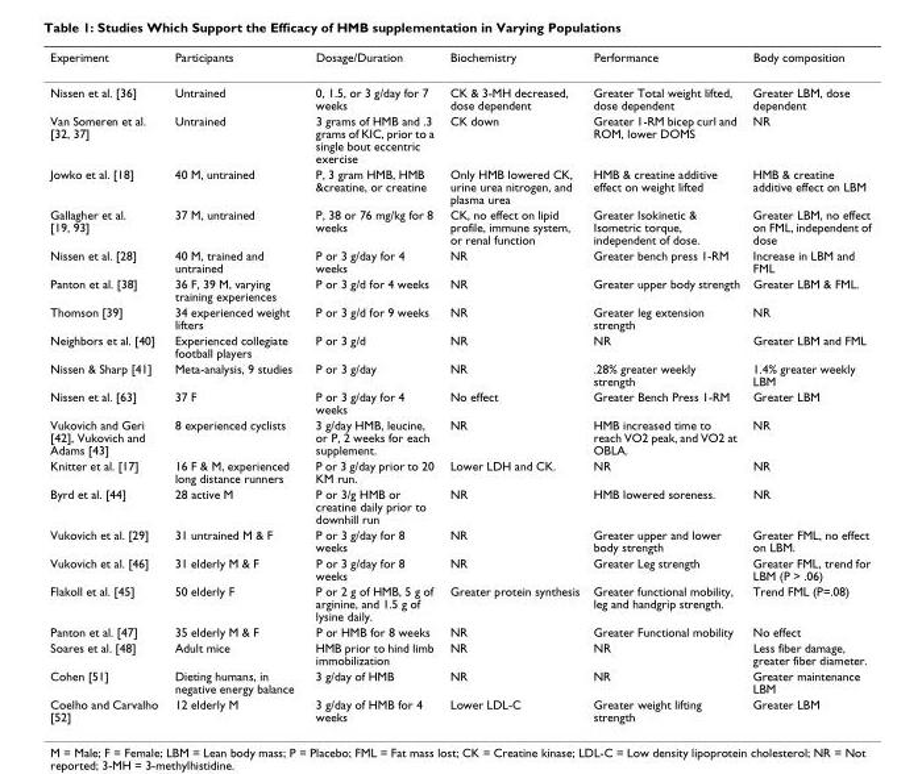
<table><thead><tr><td>Experiment</td><td>Participants</td><td>Dosage/Duration</td><td>Biochemistry</td><td>Performance</td><td>Body composition</td></tr></thead><tbody><tr><td>Nissen et al. [36]</td><td>Untrained</td><td>0, 1.5, or 3 g/day for 7 weeks</td><td>CK &amp; 3-MH decreased, dose dependent</td><td>Greater Total weight lifted, dose dependent</td><td>Greater LBM, dose dependent</td></tr><tr><td>Van Someren et al. [32, 37]</td><td>Untrained</td><td>3 grams of HMB and .3 grams of KIC, prior to a single bout eccentric exercise</td><td>CK down</td><td>Greater 1-RM bicep curl and ROM, lower DOMS</td><td>NR</td></tr><tr><td>Jowko et al. [18]</td><td>40 M, untrained</td><td>P, 3 gram HMB, HMB &amp;creatine, or creatine</td><td>Only HMB lowered CK, urine urea nitrogen, and plasma urea</td><td>HMB &amp; creatine additive effect on weight lifted</td><td>HMB &amp; creatine additive effect on LBM</td></tr><tr><td>Gallagher et al. [19, 93]</td><td>37 M, untrained</td><td>P, 38 or 76 mg/kg for 8 weeks</td><td>CK, no effect on lipid profile, immune system, or renal function</td><td>Greater Isokinetic &amp; Isometric torque, independent of dose.</td><td>Greater LBM, no effect on FML, independent of dose</td></tr><tr><td>Nissen et al. [28]</td><td>40 M, trained and untrained</td><td>P or 3 g/day for 4 weeks</td><td>NR</td><td>Greater bench press 1-RM</td><td>Increase in LBM and FML</td></tr><tr><td>Panton et al. [38]</td><td>36 F, 39 M, varying training experiences</td><td>P or 3 g/d for 4 weeks</td><td>NR</td><td>Greater upper body strength</td><td>Greater LBM &amp; FML.</td></tr><tr><td>Thomson [39]</td><td>34 experienced weight lifters</td><td>P or 3 g/d for 9 weeks</td><td>NR</td><td>Greater leg extension strength</td><td>NR</td></tr><tr><td>Neighbors et al. [40]</td><td>Experienced collegiate football players</td><td>P or 3 g/d</td><td>NR</td><td>NR</td><td>Greater LBM and FML</td></tr><tr><td>Nissen &amp; Sharp [41]</td><td>Meta-analysis, 9 studies</td><td>P or 3 g/day</td><td>NR</td><td>.28% greater weekly strength</td><td>1.4% greater weekly LBM</td></tr><tr><td>Nissen et al. [63]</td><td>37 F</td><td>P or 3 g/day for 4 weeks</td><td>No effect</td><td>Greater Bench Press 1-RM</td><td>Greater LBM</td></tr><tr><td>Vukovich and Geri [42], Vukovich and Adams [43]</td><td>8 experienced cyclists</td><td>3 g/day HMB, leucine, or P, 2 weeks for each supplement.</td><td>NR</td><td>HMB increased time to reach VO2 peak, and VO2 at OBLA.</td><td>NR</td></tr><tr><td>Knitter et al. [17]</td><td>16 F &amp; M, experienced long distance runners</td><td>P or 3 g/day prior to 20 KM run.</td><td>Lower LDH and CK.</td><td>NR</td><td>NR</td></tr><tr><td>Byrd et al. [44]</td><td>28 active M</td><td>P or 3/g HMB or creatine daily prior to downhill run</td><td>NR</td><td>HMB lowered soreness.</td><td>NR</td></tr><tr><td>Vukovich et al. [29]</td><td>31 untrained M &amp; F</td><td>P or 3 g/day for 8 weeks</td><td>NR</td><td>Greater upper and lower body strength</td><td>Greater FML, no effect on LBM.</td></tr><tr><td>Vukovich et al. [46]</td><td>31 elderly M &amp; F</td><td>P or 3 g/day for 8 weeks</td><td>NR</td><td>Greater Leg strength</td><td>Greater FML, trend for LBM (P &gt; .06)</td></tr><tr><td>Flakoll et al. [45]</td><td>50 elderly F</td><td>P or 2 g of HMB, 5 g of arginine, and 1.5 g of lysine daily.</td><td>Greater protein synthesis</td><td>Greater functional mobility, leg and handgrip strength.</td><td>Trend FML (P=.08)</td></tr><tr><td>Panton et al. [47]</td><td>35 elderly M &amp; F</td><td>P or HMB for 8 weeks</td><td>NR</td><td>Greater Functional mobility</td><td>No effect</td></tr><tr><td>Soares et al. [48]</td><td>Adult mice</td><td>HMB prior to hind limb immobilization</td><td>NR</td><td>NR</td><td>Less fiber damage, greater fiber diameter.</td></tr><tr><td>Cohen [51]</td><td>Dieting humans, in negative energy balance</td><td>3 g/day of HMB</td><td>NR</td><td>NR</td><td>Greater maintenance LBM</td></tr><tr><td>Coelho and Carvalho [52]</td><td>12 elderly M</td><td>3 g/day of HMB for 4 weeks</td><td>Lower LDL-C</td><td>Greater weight lifting strength</td><td>Greater LBM</td></tr></tbody></table>